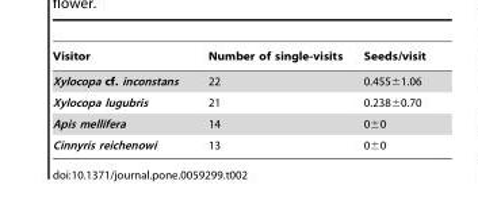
<table><thead><tr><td>Visitor</td><td>Number of single-visits</td><td>Seeds/visit</td></tr></thead><tbody><tr><td>Xylocopa cf. inconstans</td><td>22</td><td>0.455±1.06</td></tr><tr><td>Xylocopa lugubris</td><td>21</td><td>0.238±0.70</td></tr><tr><td>Apis mellifera</td><td>14</td><td>0±0</td></tr><tr><td>Cinnyris reichenowi</td><td>13</td><td>0±0</td></tr></tbody></table>